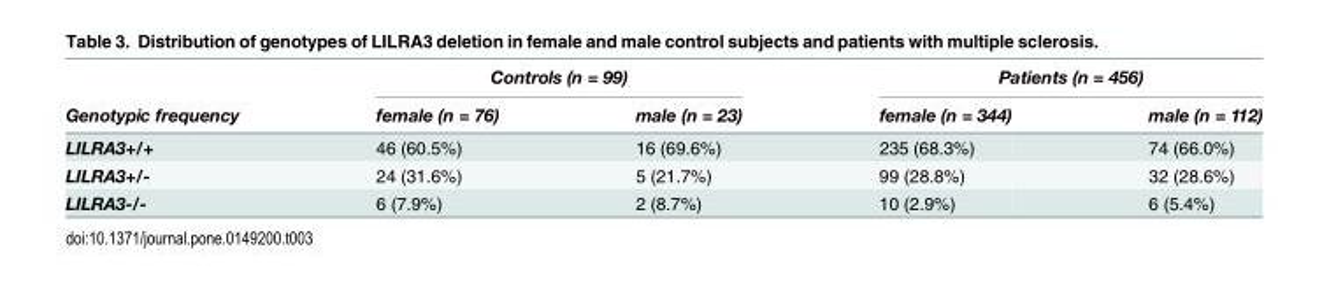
<table><thead><tr><td rowspan="2">Genotypic frequency</td><td colspan="2">Controls (n = 99)</td><td colspan="2">Patients (n = 456)</td></tr><tr><td>female (n = 76)</td><td>male (n = 23)</td><td>female (n = 344)</td><td>male (n = 112)</td></tr></thead><tbody><tr><td>LILRA3+/+</td><td>46 (60.5%)</td><td>16 (69.6%)</td><td>235 (68.3%)</td><td>74 (66.0%)</td></tr><tr><td>LILRA3+/-</td><td>24 (31.6%)</td><td>5 (21.7%)</td><td>99 (28.8%)</td><td>32 (28.6%)</td></tr><tr><td>LILRA3-/-</td><td>6 (7.9%)</td><td>2 (8.7%)</td><td>10 (2.9%)</td><td>6 (5.4%)</td></tr></tbody></table>